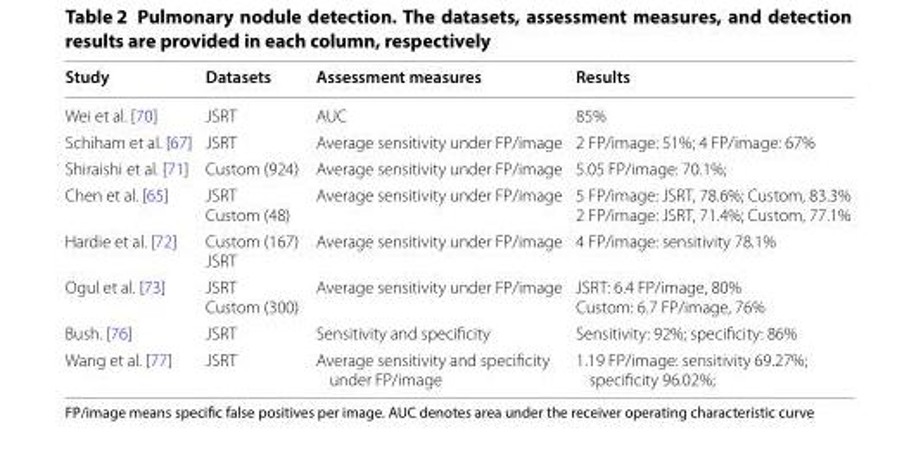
<table><thead><tr><td>Study</td><td>Datasets</td><td>Assessment measures</td><td>Results</td></tr></thead><tbody><tr><td>Wei et al. [70]</td><td>JSRT</td><td>AUC</td><td>85%</td></tr><tr><td>Schiham et al. [67]</td><td>JSRT</td><td>Average sensitivity under FP/image</td><td>2 FP/image: 51%; 4 FP/image: 67%</td></tr><tr><td>Shiraishi et al. [71]</td><td>Custom (924)</td><td>Average sensitivity under FP/image</td><td>5.05 FP/image: 70.1%;</td></tr><tr><td>Chen et al. [65]</td><td>JSRT Custom (48)</td><td>Average sensitivity under FP/image</td><td>5 FP/image: JSRT, 78.6%; Custom, 83.3% 2 FP/image: JSRT, 71.4%; Custom, 77.1%</td></tr><tr><td>Hardie et al. [72]</td><td>Custom (167) JSRT</td><td>Average sensitivity under FP/image</td><td>4 FP/image: sensitivity 78.1%</td></tr><tr><td>Ogul et al. [73]</td><td>JSRT Custom (300)</td><td>Average sensitivity under FP/image</td><td>JSRT: 6.4 FP/image, 80% Custom: 6.7 FP/image, 76%</td></tr><tr><td>Bush. [76]</td><td>JSRT</td><td>Sensitivity and specificity</td><td>Sensitivity: 92%; specificity: 86%</td></tr><tr><td>Wang et al. [77]</td><td>JSRT</td><td>Average sensitivity and specificity under FP/image</td><td>1.19 FP/image: sensitivity 69.27%; specificity 96.02%;</td></tr></tbody></table>